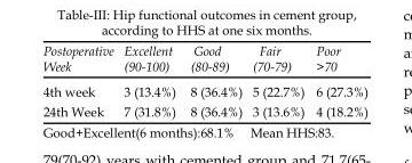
<table><thead><tr><td>Postoperative Week</td><td>Excellent (90-100)</td><td>Good (80-89)</td><td>Fair (70-79)</td><td>Poor &gt;70</td></tr></thead><tbody><tr><td>4th week</td><td>3 (13.4%)</td><td>8 (36.4%)</td><td>5 (22.7%)</td><td>6 (27.3%)</td></tr><tr><td>24th Week</td><td>7 (31.8%)</td><td>8 (36.4%)</td><td>3 (13.6%)</td><td>4 (18.2%)</td></tr></tbody></table>